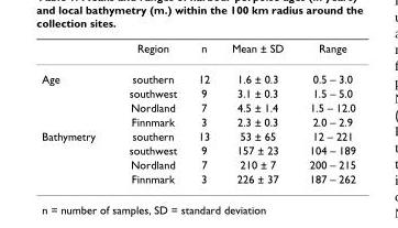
<table><thead><tr><td></td><td>Region</td><td>n</td><td>Mean ± SD</td><td>Range</td></tr></thead><tbody><tr><td rowspan="4">Age</td><td>southern</td><td>12</td><td>1.6 ± 0.3</td><td>0.5 – 3.0</td></tr><tr><td>southwest</td><td>9</td><td>3.1 ± 0.3</td><td>1.5 – 5.0</td></tr><tr><td>Nordland</td><td>7</td><td>4.5 ± 1.4</td><td>1.5 – 12.0</td></tr><tr><td>Finnmark</td><td>3</td><td>2.3 ± 0.3</td><td>2.0 – 2.9</td></tr><tr><td rowspan="4">Bathymetry</td><td>southern</td><td>13</td><td>53 ± 65</td><td>12 – 221</td></tr><tr><td>southwest</td><td>9</td><td>157 ± 23</td><td>104 – 189</td></tr><tr><td>Nordland</td><td>7</td><td>210 ± 7</td><td>200 – 215</td></tr><tr><td>Finnmark</td><td>3</td><td>226 ± 37</td><td>187 – 262</td></tr></tbody></table>